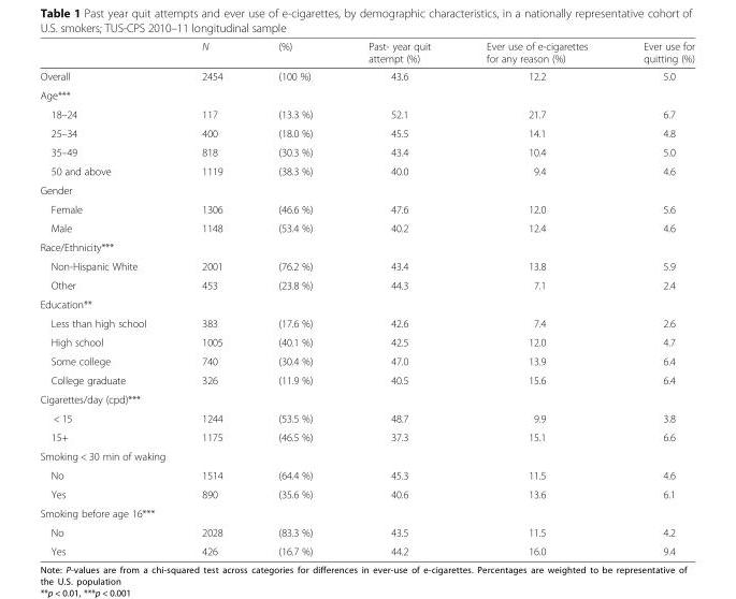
<table><thead><tr><td></td><td>N</td><td>(%)</td><td>Past- year quit attempt (%)</td><td>Ever use of e-cigarettes for any reason (%)</td><td>Ever use for quitting (%)</td></tr></thead><tbody><tr><td>Overall</td><td>2454</td><td>(100 %)</td><td>43.6</td><td>12.2</td><td>5.0</td></tr><tr><td colspan="6">Age***</td></tr><tr><td>18–24</td><td>117</td><td>(13.3 %)</td><td>52.1</td><td>21.7</td><td>6.7</td></tr><tr><td>25–34</td><td>400</td><td>(18.0 %)</td><td>45.5</td><td>14.1</td><td>4.8</td></tr><tr><td>35–49</td><td>818</td><td>(30.3 %)</td><td>43.4</td><td>10.4</td><td>5.0</td></tr><tr><td>50 and above</td><td>1119</td><td>(38.3 %)</td><td>40.0</td><td>9.4</td><td>4.6</td></tr><tr><td colspan="6">Gender</td></tr><tr><td>Female</td><td>1306</td><td>(46.6 %)</td><td>47.6</td><td>12.0</td><td>5.6</td></tr><tr><td>Male</td><td>1148</td><td>(53.4 %)</td><td>40.2</td><td>12.4</td><td>4.6</td></tr><tr><td colspan="6">Race/Ethnicity***</td></tr><tr><td>Non-Hispanic White</td><td>2001</td><td>(76.2 %)</td><td>43.4</td><td>13.8</td><td>5.9</td></tr><tr><td>Other</td><td>453</td><td>(23.8 %)</td><td>44.3</td><td>7.1</td><td>2.4</td></tr><tr><td colspan="6">Education**</td></tr><tr><td>Less than high school</td><td>383</td><td>(17.6 %)</td><td>42.6</td><td>7.4</td><td>2.6</td></tr><tr><td>High school</td><td>1005</td><td>(40.1 %)</td><td>42.5</td><td>12.0</td><td>4.7</td></tr><tr><td>Some college</td><td>740</td><td>(30.4 %)</td><td>47.0</td><td>13.9</td><td>6.4</td></tr><tr><td>College graduate</td><td>326</td><td>(11.9 %)</td><td>40.5</td><td>15.6</td><td>6.4</td></tr><tr><td colspan="6">Cigarettes/day (cpd)***</td></tr><tr><td>&lt; 15</td><td>1244</td><td>(53.5 %)</td><td>48.7</td><td>9.9</td><td>3.8</td></tr><tr><td>15+</td><td>1175</td><td>(46.5 %)</td><td>37.3</td><td>15.1</td><td>6.6</td></tr><tr><td colspan="6">Smoking &lt; 30 min of waking</td></tr><tr><td>No</td><td>1514</td><td>(64.4 %)</td><td>45.3</td><td>11.5</td><td>4.6</td></tr><tr><td>Yes</td><td>890</td><td>(35.6 %)</td><td>40.6</td><td>13.6</td><td>6.1</td></tr><tr><td colspan="6">Smoking before age 16***</td></tr><tr><td>No</td><td>2028</td><td>(83.3 %)</td><td>43.5</td><td>11.5</td><td>4.2</td></tr><tr><td>Yes</td><td>426</td><td>(16.7 %)</td><td>44.2</td><td>16.0</td><td>9.4</td></tr></tbody></table>